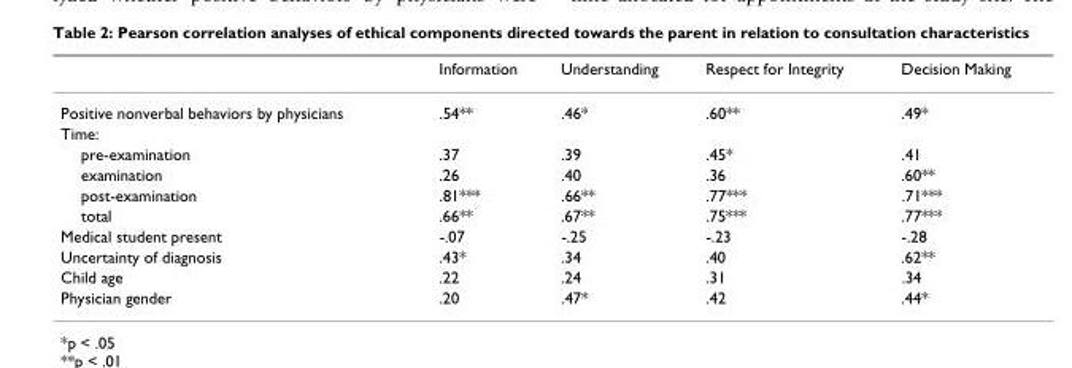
<table><thead><tr><td></td><td>Information</td><td>Understanding</td><td>Respect for Integrity</td><td>Decision Making</td></tr></thead><tbody><tr><td>Positive nonverbal behaviors by physicians</td><td>.54**</td><td>.46*</td><td>.60**</td><td>.49*</td></tr><tr><td colspan="5">Time:</td></tr><tr><td>pre-examination</td><td>.37</td><td>.39</td><td>.45*</td><td>.41</td></tr><tr><td>examination</td><td>.26</td><td>.40</td><td>.36</td><td>.60**</td></tr><tr><td>post-examination</td><td>.81***</td><td>.66**</td><td>.77***</td><td>.71***</td></tr><tr><td>total</td><td>.66**</td><td>.67**</td><td>.75***</td><td>.77***</td></tr><tr><td>Medical student present</td><td>-.07</td><td>-.25</td><td>-.23</td><td>-.28</td></tr><tr><td>Uncertainty of diagnosis</td><td>.43*</td><td>.34</td><td>.40</td><td>.62**</td></tr><tr><td>Child age</td><td>.22</td><td>.24</td><td>.31</td><td>.34</td></tr><tr><td>Physician gender</td><td>.20</td><td>.47*</td><td>.42</td><td>.44*</td></tr></tbody></table>